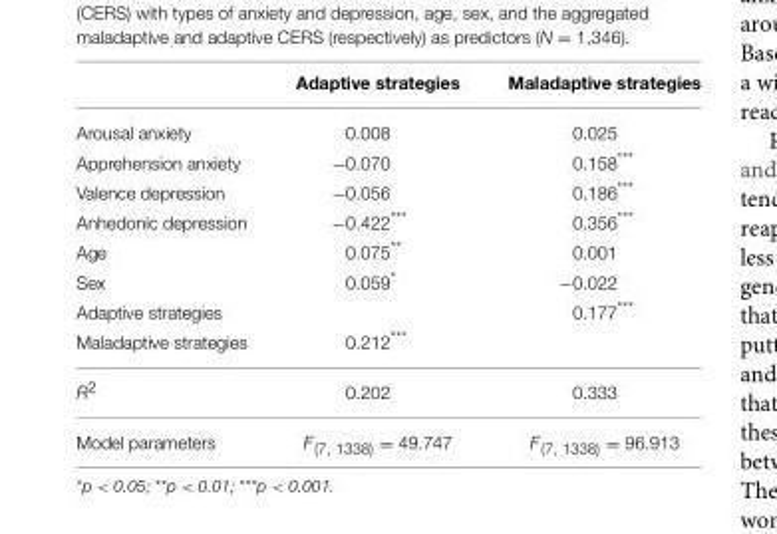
<table><thead><tr><td></td><td>Adaptive strategies</td><td>Maladaptive strategies</td></tr></thead><tbody><tr><td>Arousal anxiety</td><td>0.008</td><td>0.025</td></tr><tr><td>Apprehension anxiety</td><td>−0.070</td><td>0.158***</td></tr><tr><td>Valence depression</td><td>−0.056</td><td>0.186***</td></tr><tr><td>Anhedonic depression</td><td>−0.422***</td><td>0.356***</td></tr><tr><td>Age</td><td>0.075**</td><td>0.001</td></tr><tr><td>Sex</td><td>0.059*</td><td>−0.022</td></tr><tr><td>Adaptive strategies</td><td></td><td>0.177***</td></tr><tr><td>Maladaptive strategies</td><td>0.212***</td><td></td></tr><tr><td>R<sup>2</sup></td><td>0.202</td><td>0.333</td></tr><tr><td>Model parameters</td><td>F<sub>(7, 1338)</sub> = 49.747</td><td>F<sub>(7, 1338)</sub> = 96.913</td></tr></tbody></table>